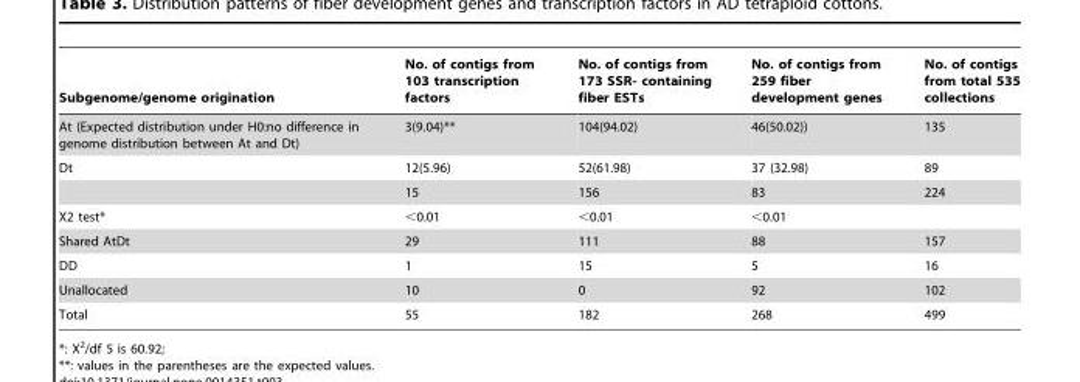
<table><thead><tr><td>Subgenome/genome origination</td><td>No. of contigs from 103 transcription factors</td><td>No. of contigs from 173 SSR- containing fiber ESTs</td><td>No. of contigs from 259 fiber development genes</td><td>No. of contigs from total 535 collections</td></tr></thead><tbody><tr><td>At (Expected distribution under H0:no difference in genome distribution between At and Dt)</td><td>3(9.04)**</td><td>104(94.02)</td><td>46(50.02))</td><td>135</td></tr><tr><td rowspan="2">Dt</td><td>12(5.96)</td><td>52(61.98)</td><td>37 (32.98)</td><td>89</td></tr><tr><td>15</td><td>156</td><td>83</td><td>224</td></tr><tr><td>X2 test*</td><td>&lt;0.01</td><td>&lt;0.01</td><td>&lt;0.01</td><td></td></tr><tr><td>Shared AtDt</td><td>29</td><td>111</td><td>88</td><td>157</td></tr><tr><td>DD</td><td>1</td><td>15</td><td>5</td><td>16</td></tr><tr><td>Unallocated</td><td>10</td><td>0</td><td>92</td><td>102</td></tr><tr><td>Total</td><td>55</td><td>182</td><td>268</td><td>499</td></tr></tbody></table>